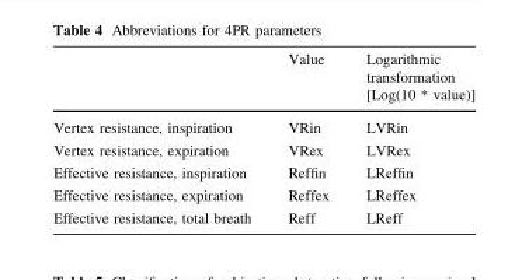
<table><thead><tr><td></td><td>Value</td><td>Logarithmic transformation [Log(10 * value)]</td></tr></thead><tbody><tr><td>Vertex resistance, inspiration</td><td>VRin</td><td>LVRin</td></tr><tr><td>Vertex resistance, expiration</td><td>VRex</td><td>LVRex</td></tr><tr><td>Effective resistance, inspiration</td><td>Reffin</td><td>LReffin</td></tr><tr><td>Effective resistance, expiration</td><td>Reffex</td><td>LReffex</td></tr><tr><td>Effective resistance, total breath</td><td>Reff</td><td>LReff</td></tr></tbody></table>